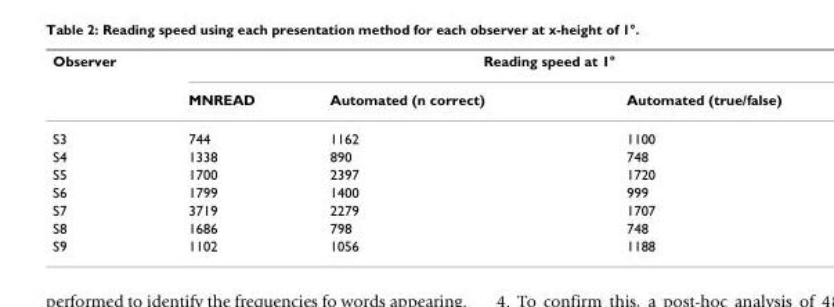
<table><thead><tr><td rowspan="2">Observer</td><td colspan="3">Reading speed at 1°</td></tr><tr><td>MNREAD</td><td>Automated (n correct)</td><td>Automated (true/false)</td></tr></thead><tbody><tr><td>S3</td><td>744</td><td>1162</td><td>1100</td></tr><tr><td>S4</td><td>1338</td><td>890</td><td>748</td></tr><tr><td>S5</td><td>1700</td><td>2397</td><td>1720</td></tr><tr><td>S6</td><td>1799</td><td>1400</td><td>999</td></tr><tr><td>S7</td><td>3719</td><td>2279</td><td>1707</td></tr><tr><td>S8</td><td>1686</td><td>798</td><td>748</td></tr><tr><td>S9</td><td>1102</td><td>1056</td><td>1188</td></tr></tbody></table>